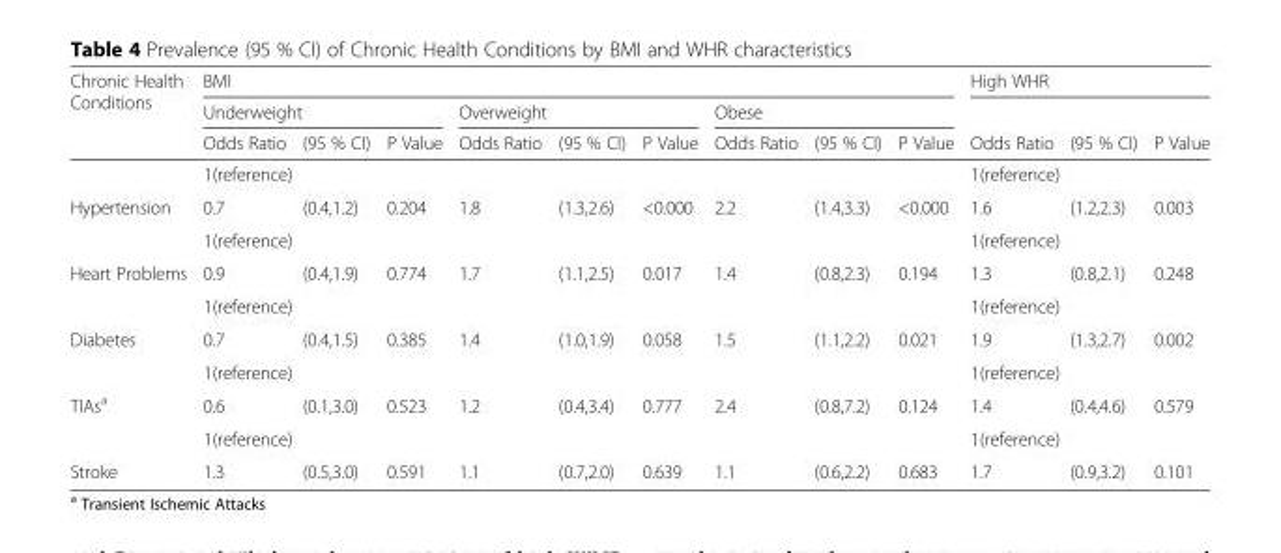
<table><thead><tr><td rowspan="3">Chronic Health Conditions</td><td colspan="9">BMI</td><td colspan="3">High WHR</td></tr><tr><td colspan="3">Underweight</td><td colspan="3">Overweight</td><td colspan="3">Obese</td><td rowspan="2">Odds Ratio</td><td rowspan="2">(95 % CI)</td><td rowspan="2">P Value</td></tr><tr><td>Odds Ratio</td><td>(95 % CI)</td><td>P Value</td><td>Odds Ratio</td><td>(95 % CI)</td><td>P Value</td><td>Odds Ratio</td><td>(95 % CI)</td><td>P Value</td></tr></thead><tbody><tr><td></td><td colspan="2">1(reference)</td><td></td><td></td><td></td><td></td><td></td><td></td><td></td><td colspan="2">1(reference)</td><td></td></tr><tr><td rowspan="2">Hypertension</td><td>0.7</td><td>(0.4,1.2)</td><td>0.204</td><td>1.8</td><td>(1.3,2.6)</td><td>&lt;0.000</td><td>2.2</td><td>(1.4,3.3)</td><td>&lt;0.000</td><td>1.6</td><td>(1.2,2.3)</td><td>0.003</td></tr><tr><td colspan="2">1(reference)</td><td></td><td></td><td></td><td></td><td></td><td></td><td></td><td colspan="2">1(reference)</td><td></td></tr><tr><td rowspan="2">Heart Problems</td><td>0.9</td><td>(0.4,1.9)</td><td>0.774</td><td>1.7</td><td>(1.1,2.5)</td><td>0.017</td><td>1.4</td><td>(0.8,2.3)</td><td>0.194</td><td>1.3</td><td>(0.8,2.1)</td><td>0.248</td></tr><tr><td colspan="2">1(reference)</td><td></td><td></td><td></td><td></td><td></td><td></td><td></td><td colspan="2">1(reference)</td><td></td></tr><tr><td rowspan="2">Diabetes</td><td>0.7</td><td>(0.4,1.5)</td><td>0.385</td><td>1.4</td><td>(1.0,1.9)</td><td>0.058</td><td>1.5</td><td>(1.1,2.2)</td><td>0.021</td><td>1.9</td><td>(1.3,2.7)</td><td>0.002</td></tr><tr><td colspan="2">1(reference)</td><td></td><td></td><td></td><td></td><td></td><td></td><td></td><td colspan="2">1(reference)</td><td></td></tr><tr><td rowspan="2">TIAs<sup>a</sup></td><td>0.6</td><td>(0.1,3.0)</td><td>0.523</td><td>1.2</td><td>(0.4,3.4)</td><td>0.777</td><td>2.4</td><td>(0.8,7.2)</td><td>0.124</td><td>1.4</td><td>(0.4,4.6)</td><td>0.579</td></tr><tr><td colspan="2">1(reference)</td><td></td><td></td><td></td><td></td><td></td><td></td><td></td><td colspan="2">1(reference)</td><td></td></tr><tr><td>Stroke</td><td>1.3</td><td>(0.5,3.0)</td><td>0.591</td><td>1.1</td><td>(0.7,2.0)</td><td>0.639</td><td>1.1</td><td>(0.6,2.2)</td><td>0.683</td><td>1.7</td><td>(0.9,3.2)</td><td>0.101</td></tr></tbody></table>